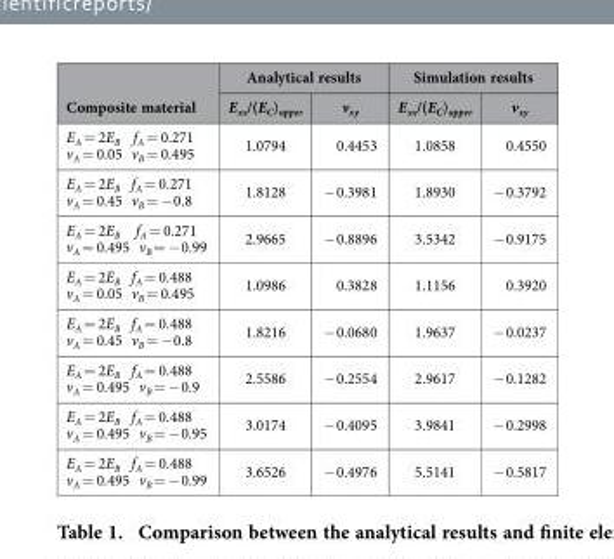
<table><thead><tr><td rowspan="2">Composite material</td><td colspan="2">Analytical results</td><td colspan="2">Simulation results</td></tr><tr><td>E<sub>xx</sub>/(E<sub>C</sub>)<sub>upper</sub></td><td>v<sub>xy</sub></td><td>E<sub>xx</sub>/(E<sub>C</sub>)<sub>upper</sub></td><td>v<sub>xy</sub></td></tr></thead><tbody><tr><td>E<sub>A</sub> = 2E<sub>B</sub> f<sub>A</sub> = 0.271 v<sub>A</sub> = 0.05 v<sub>B</sub> = 0.495</td><td>1.0794</td><td>0.4453</td><td>1.0858</td><td>0.4550</td></tr><tr><td>E<sub>A</sub> = 2E<sub>B</sub> f<sub>A</sub> = 0.271 v<sub>A</sub> = 0.45 v<sub>B</sub> = − 0.8</td><td>1.8128</td><td>− 0.3981</td><td>1.8930</td><td>− 0.3792</td></tr><tr><td>E<sub>A</sub> = 2E<sub>B</sub> f<sub>A</sub> = 0.271 v<sub>A</sub> = 0.495 v<sub>B</sub> = − 0.99</td><td>2.9665</td><td>− 0.8896</td><td>3.5342</td><td>− 0.9175</td></tr><tr><td>E<sub>A</sub> = 2E<sub>B</sub> f<sub>A</sub> = 0.488 v<sub>A</sub> = 0.05 v<sub>B</sub> = 0.495</td><td>1.0986</td><td>0.3828</td><td>1.1156</td><td>0.3920</td></tr><tr><td>E<sub>A</sub> = 2E<sub>B</sub> f<sub>A</sub> = 0.488 v<sub>A</sub> = 0.45 v<sub>B</sub> = − 0.8</td><td>1.8216</td><td>− 0.0680</td><td>1.9637</td><td>− 0.0237</td></tr><tr><td>E<sub>A</sub> = 2E<sub>B</sub> f<sub>A</sub> = 0.488 v<sub>A</sub> = 0.495 v<sub>B</sub> = − 0.9</td><td>2.5586</td><td>− 0.2554</td><td>2.9617</td><td>− 0.1282</td></tr><tr><td>E<sub>A</sub> = 2E<sub>B</sub> f<sub>A</sub> = 0.488 v<sub>A</sub> = 0.495 v<sub>B</sub> = − 0.95</td><td>3.0174</td><td>− 0.4095</td><td>3.9841</td><td>− 0.2998</td></tr><tr><td>E<sub>A</sub> = 2E<sub>B</sub> f<sub>A</sub> = 0.488 v<sub>A</sub> = 0.495 v<sub>B</sub> = − 0.99</td><td>3.6526</td><td>− 0.4976</td><td>5.5141</td><td>− 0.5817</td></tr></tbody></table>